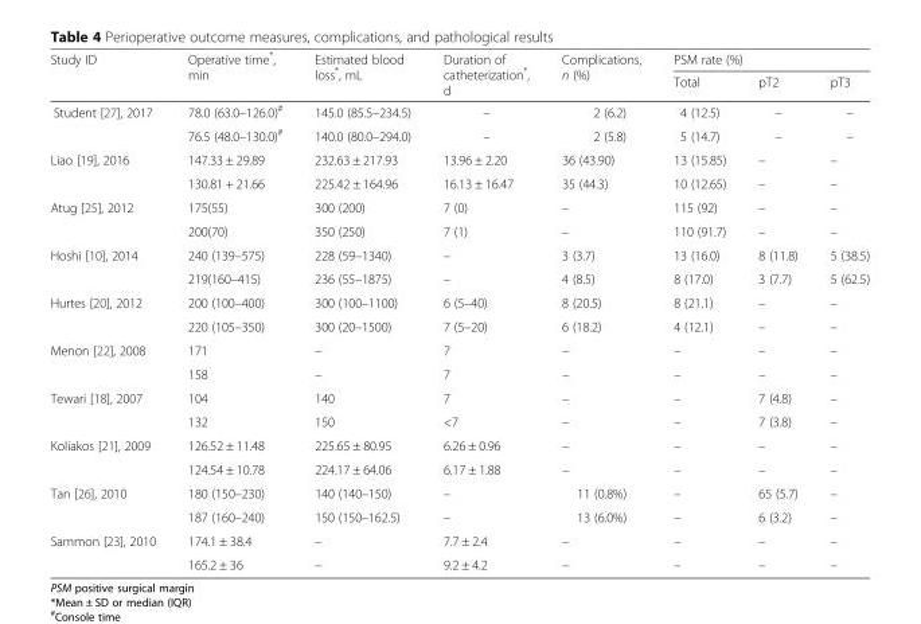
<table><thead><tr><td rowspan="2">Study ID</td><td rowspan="2">Operative time*, min</td><td rowspan="2">Estimated blood loss*, mL</td><td rowspan="2">Duration of catheterization*, d</td><td rowspan="2">Complications, n (%)</td><td colspan="3">PSM rate (%)</td></tr><tr><td>Total</td><td>pT2</td><td>pT3</td></tr></thead><tbody><tr><td rowspan="2">Student [27], 2017</td><td>78.0 (63.0–126.0)<sup>#</sup></td><td>145.0 (85.5–234.5)</td><td>–</td><td>2 (6.2)</td><td>4 (12.5)</td><td>–</td><td>–</td></tr><tr><td>76.5 (48.0–130.0)<sup>#</sup></td><td>140.0 (80.0–294.0)</td><td>–</td><td>2 (5.8)</td><td>5 (14.7)</td><td>–</td><td>–</td></tr><tr><td rowspan="2">Liao [19], 2016</td><td>147.33 ± 29.89</td><td>232.63 ± 217.93</td><td>13.96 ± 2.20</td><td>36 (43.90)</td><td>13 (15.85)</td><td>–</td><td>–</td></tr><tr><td>130.81 + 21.66</td><td>225.42 ± 164.96</td><td>16.13 ± 16.47</td><td>35 (44.3)</td><td>10 (12.65)</td><td>–</td><td>–</td></tr><tr><td rowspan="2">Atug [25], 2012</td><td>175(55)</td><td>300 (200)</td><td>7 (0)</td><td>–</td><td>115 (92)</td><td>–</td><td>–</td></tr><tr><td>200(70)</td><td>350 (250)</td><td>7 (1)</td><td>–</td><td>110 (91.7)</td><td>–</td><td>–</td></tr><tr><td rowspan="2">Hoshi [10], 2014</td><td>240 (139–575)</td><td>228 (59–1340)</td><td>–</td><td>3 (3.7)</td><td>13 (16.0)</td><td>8 (11.8)</td><td>5 (38.5)</td></tr><tr><td>219(160–415)</td><td>236 (55–1875)</td><td>–</td><td>4 (8.5)</td><td>8 (17.0)</td><td>3 (7.7)</td><td>5 (62.5)</td></tr><tr><td rowspan="2">Hurtes [20], 2012</td><td>200 (100–400)</td><td>300 (100–1100)</td><td>6 (5–40)</td><td>8 (20.5)</td><td>8 (21.1)</td><td>–</td><td>–</td></tr><tr><td>220 (105–350)</td><td>300 (20–1500)</td><td>7 (5–20)</td><td>6 (18.2)</td><td>4 (12.1)</td><td>–</td><td>–</td></tr><tr><td rowspan="2">Menon [22], 2008</td><td>171</td><td>–</td><td>7</td><td>–</td><td>–</td><td>–</td><td>–</td></tr><tr><td>158</td><td>–</td><td>7</td><td>–</td><td>–</td><td>–</td><td>–</td></tr><tr><td rowspan="2">Tewari [18], 2007</td><td>104</td><td>140</td><td>7</td><td>–</td><td>–</td><td>7 (4.8)</td><td>–</td></tr><tr><td>132</td><td>150</td><td>&lt;7</td><td>–</td><td>–</td><td>7 (3.8)</td><td>–</td></tr><tr><td rowspan="2">Koliakos [21], 2009</td><td>126.52 ± 11.48</td><td>225.65 ± 80.95</td><td>6.26 ± 0.96</td><td>–</td><td>–</td><td>–</td><td>–</td></tr><tr><td>124.54 ± 10.78</td><td>224.17 ± 64.06</td><td>6.17 ± 1.88</td><td>–</td><td>–</td><td>–</td><td>–</td></tr><tr><td rowspan="2">Tan [26], 2010</td><td>180 (150–230)</td><td>140 (140–150)</td><td>–</td><td>11 (0.8%)</td><td>–</td><td>65 (5.7)</td><td>–</td></tr><tr><td>187 (160–240)</td><td>150 (150–162.5)</td><td>–</td><td>13 (6.0%)</td><td>–</td><td>6 (3.2)</td><td>–</td></tr><tr><td rowspan="2">Sammon [23], 2010</td><td>174.1 ± 38.4</td><td>–</td><td>7.7 ± 2.4</td><td>–</td><td>–</td><td>–</td><td>–</td></tr><tr><td>165.2 ± 36</td><td>–</td><td>9.2 ± 4.2</td><td>–</td><td>–</td><td>–</td><td>–</td></tr></tbody></table>